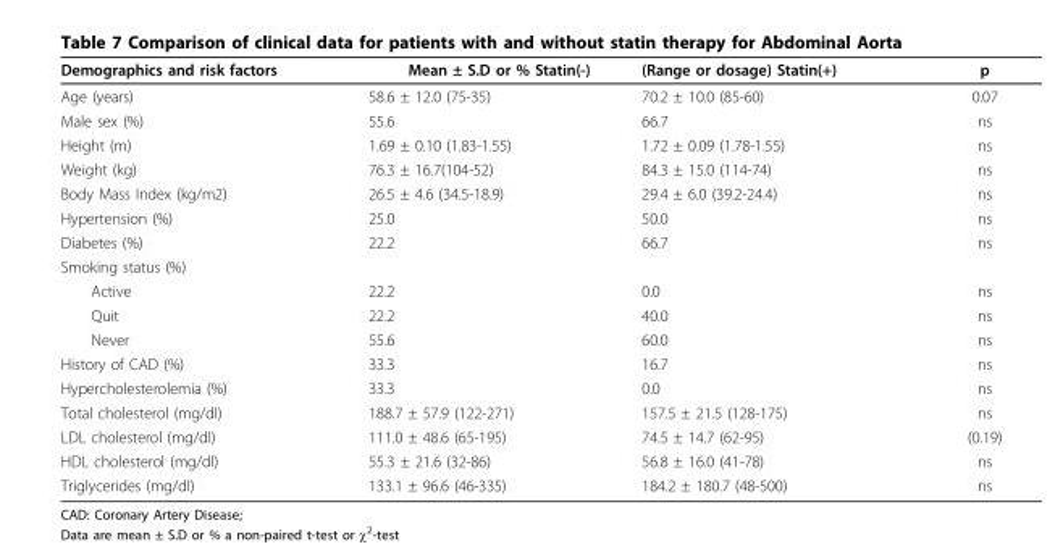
<table><thead><tr><td>Demographics and risk factors</td><td>Mean ± S.D or % Statin(-)</td><td>(Range or dosage) Statin(+)</td><td>p</td></tr></thead><tbody><tr><td>Age (years)</td><td>58.6 ± 12.0 (75-35)</td><td>70.2 ± 10.0 (85-60)</td><td>0.07</td></tr><tr><td>Male sex (%)</td><td>55.6</td><td>66.7</td><td>ns</td></tr><tr><td>Height (m)</td><td>1.69 ± 0.10 (1.83-1.55)</td><td>1.72 ± 0.09 (1.78-1.55)</td><td>ns</td></tr><tr><td>Weight (kg)</td><td>76.3 ± 16.7(104-52)</td><td>84.3 ± 15.0 (114-74)</td><td>ns</td></tr><tr><td>Body Mass Index (kg/m2)</td><td>26.5 ± 4.6 (34.5-18.9)</td><td>29.4 ± 6.0 (39.2-24.4)</td><td>ns</td></tr><tr><td>Hypertension (%)</td><td>25.0</td><td>50.0</td><td>ns</td></tr><tr><td>Diabetes (%)</td><td>22.2</td><td>66.7</td><td>ns</td></tr><tr><td colspan="4">Smoking status (%)</td></tr><tr><td>Active</td><td>22.2</td><td>0.0</td><td>ns</td></tr><tr><td>Quit</td><td>22.2</td><td>40.0</td><td>ns</td></tr><tr><td>Never</td><td>55.6</td><td>60.0</td><td>ns</td></tr><tr><td>History of CAD (%)</td><td>33.3</td><td>16.7</td><td>ns</td></tr><tr><td>Hypercholesterolemia (%)</td><td>33.3</td><td>0.0</td><td>ns</td></tr><tr><td>Total cholesterol (mg/dl)</td><td>188.7 ± 57.9 (122-271)</td><td>157.5 ± 21.5 (128-175)</td><td>ns</td></tr><tr><td>LDL cholesterol (mg/dl)</td><td>111.0 ± 48.6 (65-195)</td><td>74.5 ± 14.7 (62-95)</td><td>(0.19)</td></tr><tr><td>HDL cholesterol (mg/dl)</td><td>55.3 ± 21.6 (32-86)</td><td>56.8 ± 16.0 (41-78)</td><td>ns</td></tr><tr><td>Triglycerides (mg/dl)</td><td>133.1 ± 96.6 (46-335)</td><td>184.2 ± 180.7 (48-500)</td><td>ns</td></tr></tbody></table>